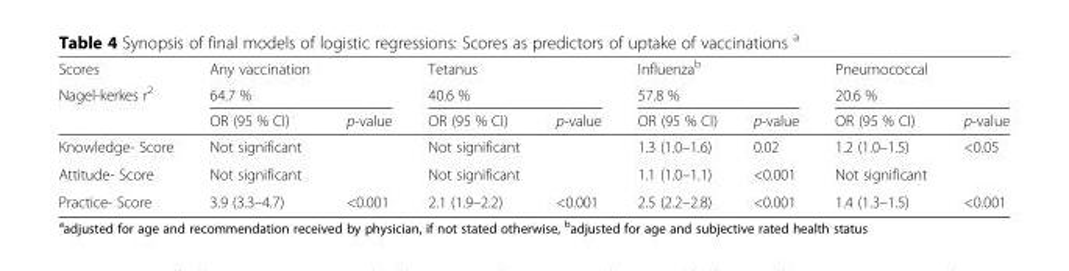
<table><thead><tr><td rowspan="3">Scores Nagel-kerkes r<sup>2</sup></td><td>Any vaccination</td><td></td><td>Tetanus</td><td></td><td>Influenza<sup>b</sup></td><td></td><td>Pneumococcal</td><td></td></tr><tr><td colspan="2">64.7 %</td><td colspan="2">40.6 %</td><td colspan="2">57.8 %</td><td colspan="2">20.6 %</td></tr><tr><td>OR (95 % CI)</td><td>p-value</td><td>OR (95 % CI)</td><td>p-value</td><td>OR (95 % CI)</td><td>p-value</td><td>OR (95 % CI)</td><td>p-value</td></tr></thead><tbody><tr><td>Knowledge- Score</td><td>Not significant</td><td></td><td>Not significant</td><td></td><td>1.3 (1.0–1.6)</td><td>0.02</td><td>1.2 (1.0–1.5)</td><td>&lt;0.05</td></tr><tr><td>Attitude- Score</td><td>Not significant</td><td></td><td>Not significant</td><td></td><td>1.1 (1.0–1.1)</td><td>&lt;0.001</td><td>Not significant</td><td></td></tr><tr><td>Practice- Score</td><td>3.9 (3.3–4.7)</td><td>&lt;0.001</td><td>2.1 (1.9–2.2)</td><td>&lt;0.001</td><td>2.5 (2.2–2.8)</td><td>&lt;0.001</td><td>1.4 (1.3–1.5)</td><td>&lt;0.001</td></tr></tbody></table>